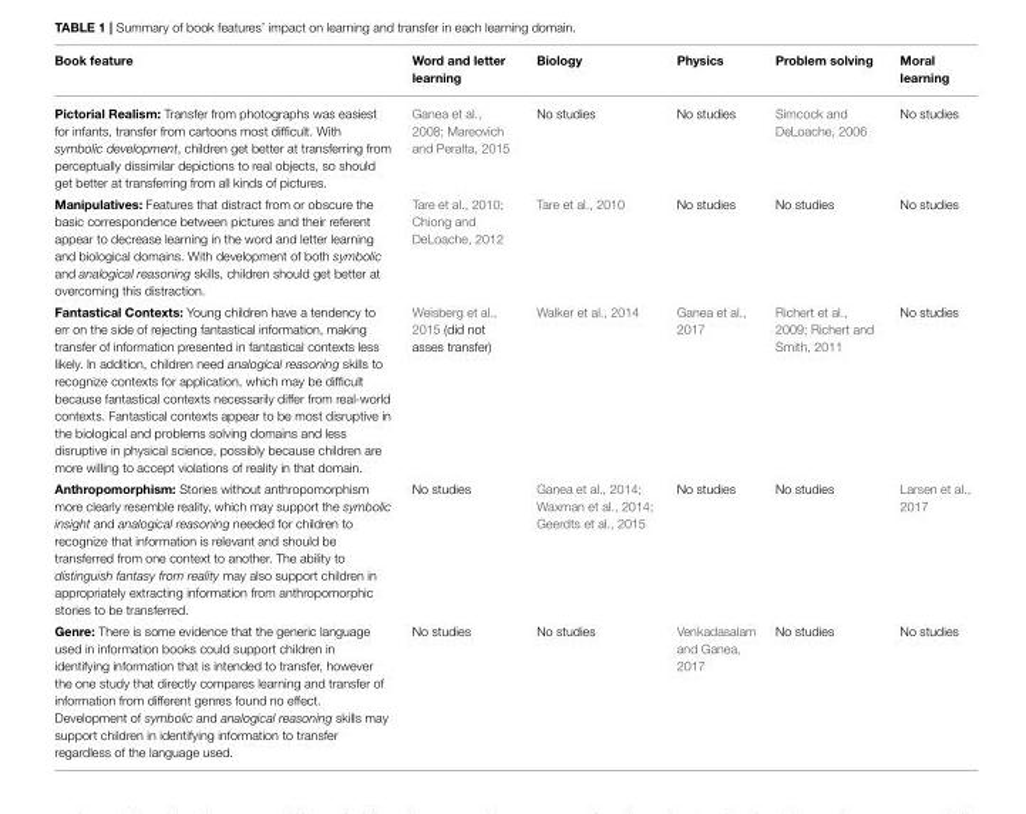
<table><thead><tr><td>Book feature</td><td>Word and letter learning</td><td>Biology</td><td>Physics</td><td>Problem solving</td><td>Moral learning</td></tr></thead><tbody><tr><td>Pictorial Realism: Transfer from photographs was easiest for infants, transfer from cartoons most difficult. With symbolic development, children get better at transferring from perceptually dissimilar depictions to real objects, so should get better at transferring from all kinds of pictures.</td><td>Ganea et al., 2008; Mareovich and Peralta, 2015</td><td>No studies</td><td>No studies</td><td>Simcock and DeLoache, 2006</td><td>No studies</td></tr><tr><td>Manipulatives: Features that distract from or obscure the basic correspondence between pictures and their referent appear to decrease learning in the word and letter learning and biological domains. With development of both symbolic and analogical reasoning skills, children should get better at overcoming this distraction.</td><td>Tare et al., 2010; Chiong and DeLoache, 2012</td><td>Tare et al., 2010</td><td>No studies</td><td>No studies</td><td>No studies</td></tr><tr><td>Fantastical Contexts: Young children have a tendency to err on the side of rejecting fantastical information, making transfer of information presented in fantastical contexts less likely. In addition, children need analogical reasoning skills to recognize contexts for application, which may be difficult because fantastical contexts necessarily differ from real-world contexts. Fantastical contexts appear to be most disruptive in the biological and problems solving domains and less disruptive in physical science, possibly because children are more willing to accept violations of reality in that domain.</td><td>Weisberg et al., 2015 (did not asses transfer)</td><td>Walker et al., 2014</td><td>Ganea et al., 2017</td><td>Richert et al., 2009; Richert and Smith, 2011</td><td>No studies</td></tr><tr><td>Anthropomorphism: Stories without anthropomorphism more clearly resemble reality, which may support the symbolic insight and analogical reasoning needed for children to recognize that information is relevant and should be transferred from one context to another. The ability to distinguish fantasy from reality may also support children in appropriately extracting information from anthropomorphic stories to be transferred.</td><td>No studies</td><td>Ganea et al., 2014; Waxman et al., 2014; Geerdts et al., 2015</td><td>No studies</td><td>No studies</td><td>Larsen et al., 2017</td></tr><tr><td>Genre: There is some evidence that the generic language used in information books could support children in identifying information that is intended to transfer, however the one study that directly compares learning and transfer of information from different genres found no effect. Development of symbolic and analogical reasoning skills may support children in identifying information to transfer regardless of the language used.</td><td>No studies</td><td>No studies</td><td>Venkadasalam and Ganea, 2017</td><td>No studies</td><td>No studies</td></tr></tbody></table>